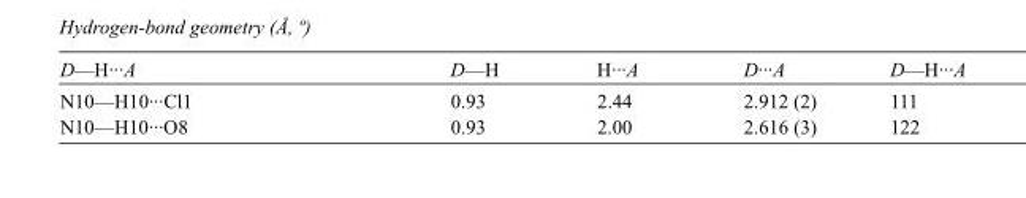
<table><tbody><tr><td>D—H···A</td><td>D—H</td><td>H···A</td><td>D···A</td><td>D—H···A</td></tr><tr><td>N10—H10···Cl1</td><td>0.93</td><td>2.44</td><td>2.912 (2)</td><td>111</td></tr><tr><td>N10—H10···O8</td><td>0.93</td><td>2.00</td><td>2.616 (3)</td><td>122</td></tr></tbody></table>